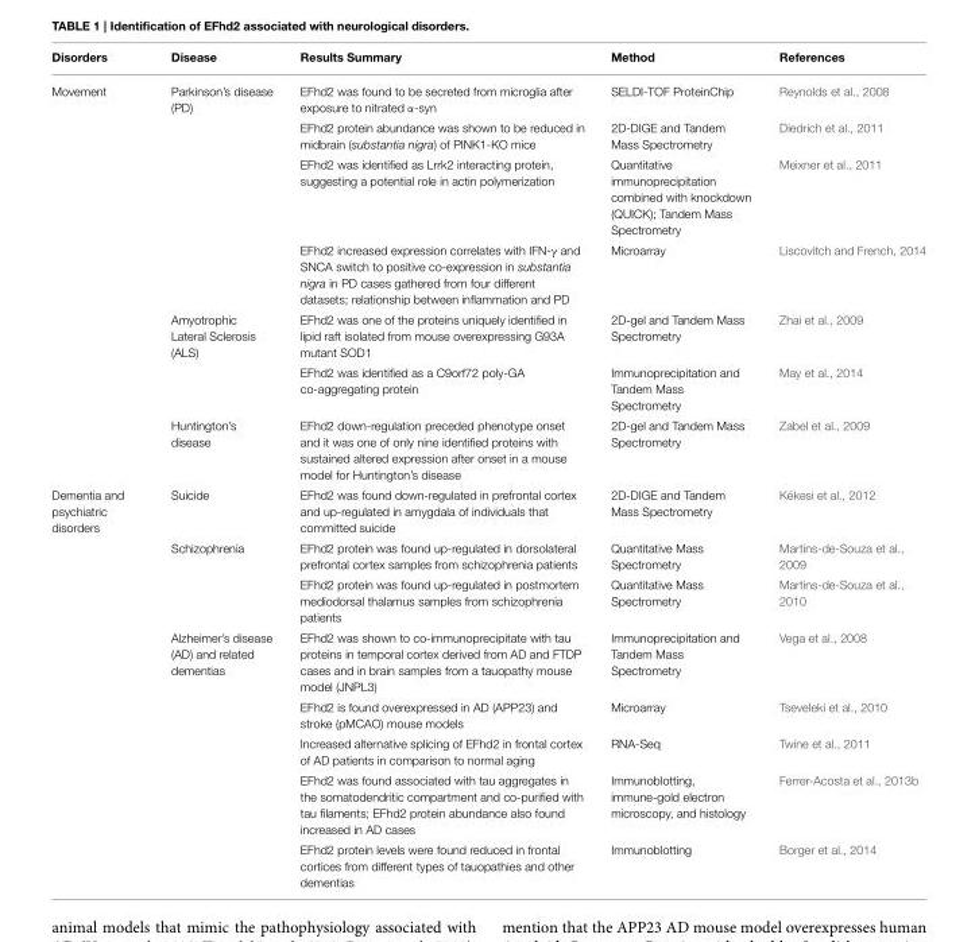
<table><thead><tr><td>Disorders</td><td>Disease</td><td>Results Summary</td><td>Method</td><td>References</td></tr></thead><tbody><tr><td rowspan="7">Movement</td><td>Parkinson’s disease (PD)</td><td>EFhd2 was found to be secreted from microglia after exposure to nitrated α-syn</td><td>SELDI-TOF ProteinChip</td><td>Reynolds et al., 2008</td></tr><tr><td></td><td>EFhd2 protein abundance was shown to be reduced in midbrain (substantia nigra) of PINK1-KO mice</td><td>2D-DIGE and Tandem Mass Spectrometry</td><td>Diedrich et al., 2011</td></tr><tr><td></td><td>EFhd2 was identified as Lrrk2 interacting protein, suggesting a potential role in actin polymerization</td><td>Quantitative immunoprecipitation combined with knockdown (QUICK); Tandem Mass Spectrometry</td><td>Meixner et al., 2011</td></tr><tr><td></td><td>EFhd2 increased expression correlates with IFN-γ and SNCA switch to positive co-expression in substantia nigra in PD cases gathered from four different datasets; relationship between inflammation and PD</td><td>Microarray</td><td>Liscovitch and French, 2014</td></tr><tr><td>Amyotrophic Lateral Sclerosis (ALS)</td><td>EFhd2 was one of the proteins uniquely identified in lipid raft isolated from mouse overexpressing G93A mutant SOD1</td><td>2D-gel and Tandem Mass Spectrometry</td><td>Zhai et al., 2009</td></tr><tr><td></td><td>EFhd2 was identified as a C9orf72 poly-GA co-aggregating protein</td><td>Immunoprecipitation and Tandem Mass Spectrometry</td><td>May et al., 2014</td></tr><tr><td>Huntington’s disease</td><td>EFhd2 down-regulation preceded phenotype onset and it was one of only nine identified proteins with sustained altered expression after onset in a mouse model for Huntington’s disease</td><td>2D-gel and Tandem Mass Spectrometry</td><td>Zabel et al., 2009</td></tr><tr><td rowspan="8">Dementia and psychiatric disorders</td><td>Suicide</td><td>EFhd2 was found down-regulated in prefrontal cortex and up-regulated in amygdala of individuals that committed suicide</td><td>2D-DIGE and Tandem Mass Spectrometry</td><td>Kékesi et al., 2012</td></tr><tr><td>Schizophrenia</td><td>EFhd2 protein was found up-regulated in dorsolateral prefrontal cortex samples from schizophrenia patients</td><td>Quantitative Mass Spectrometry</td><td>Martins-de-Souza et al., 2009</td></tr><tr><td></td><td>EFhd2 protein was found up-regulated in postmortem mediodorsal thalamus samples from schizophrenia patients</td><td>Quantitative Mass Spectrometry</td><td>Martins-de-Souza et al., 2010</td></tr><tr><td>Alzheimer’s disease (AD) and related dementias</td><td>EFhd2 was shown to co-immunoprecipitate with tau proteins in temporal cortex derived from AD and FTDP cases and in brain samples from a tauopathy mouse model (JNPL3)</td><td>Immunoprecipitation and Tandem Mass Spectrometry</td><td>Vega et al., 2008</td></tr><tr><td></td><td>EFhd2 is found overexpressed in AD (APP23) and stroke (pMCAO) mouse models</td><td>Microarray</td><td>Tseveleki et al., 2010</td></tr><tr><td></td><td>Increased alternative splicing of EFhd2 in frontal cortex of AD patients in comparison to normal aging</td><td>RNA-Seq</td><td>Twine et al., 2011</td></tr><tr><td></td><td>EFhd2 was found associated with tau aggregates in the somatodendritic compartment and co-purified with tau filaments; EFhd2 protein abundance also found increased in AD cases</td><td>Immunoblotting, immune-gold electron microscopy, and histology</td><td>Ferrer-Acosta et al., 2013b</td></tr><tr><td></td><td>EFhd2 protein levels were found reduced in frontal cortices from different types of tauopathies and other dementias</td><td>Immunoblotting</td><td>Borger et al., 2014</td></tr></tbody></table>